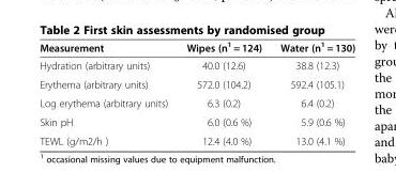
<table><thead><tr><td>Measurement</td><td>Wipes (n<sup>1</sup> = 124)</td><td>Water (n<sup>1</sup> = 130)</td></tr></thead><tbody><tr><td>Hydration (arbitrary units)</td><td>40.0 (12.6)</td><td>38.8 (12.3)</td></tr><tr><td>Erythema (arbitrary units)</td><td>572.0 (104.2)</td><td>592.4 (105.1)</td></tr><tr><td>Log erythema (arbitrary units)</td><td>6.3 (0.2)</td><td>6.4 (0.2)</td></tr><tr><td>Skin pH</td><td>6.0 (0.6 %)</td><td>5.9 (0.6 %)</td></tr><tr><td>TEWL (g/m2/h )</td><td>12.4 (4.0 %)</td><td>13.0 (4.1 %)</td></tr></tbody></table>